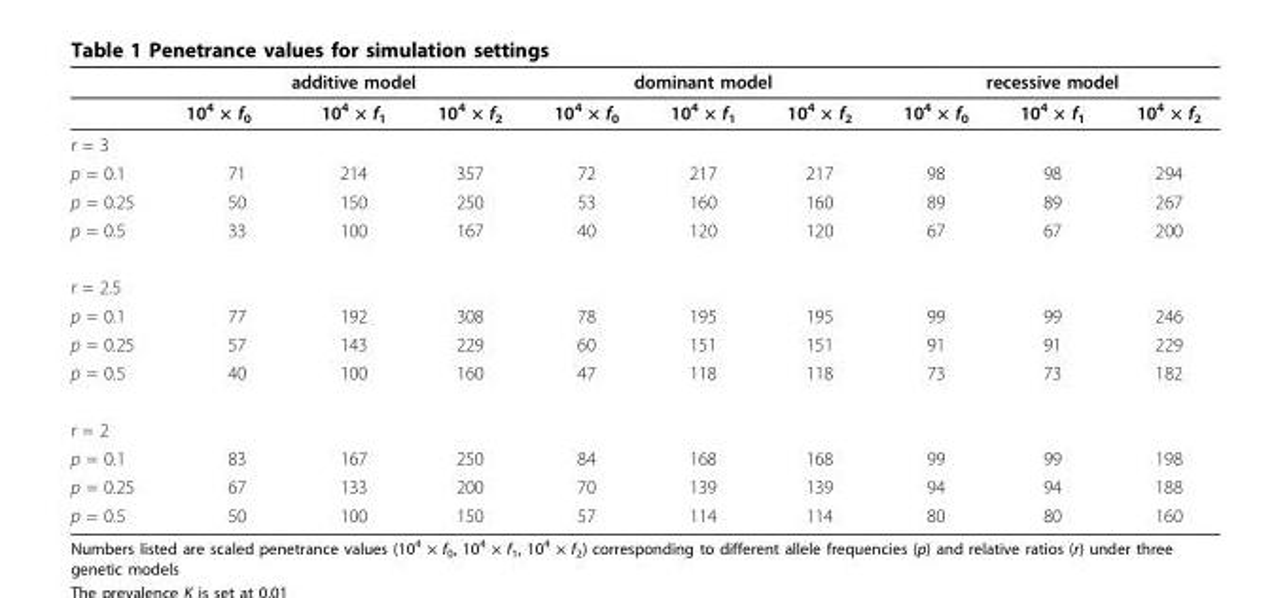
<table><thead><tr><td rowspan="2"></td><td colspan="3">additive model</td><td colspan="3">dominant model</td><td colspan="3">recessive model</td></tr><tr><td>10<sup>4</sup> × f<sub>0</sub></td><td>10<sup>4</sup> × f<sub>1</sub></td><td>10<sup>4</sup> × f<sub>2</sub></td><td>10<sup>4</sup> × f<sub>0</sub></td><td>10<sup>4</sup> × f<sub>1</sub></td><td>10<sup>4</sup> × f<sub>2</sub></td><td>10<sup>4</sup> × f<sub>0</sub></td><td>10<sup>4</sup> × f<sub>1</sub></td><td>10<sup>4</sup> × f<sub>2</sub></td></tr></thead><tbody><tr><td colspan="10">r = 3</td></tr><tr><td>p = 0.1</td><td>71</td><td>214</td><td>357</td><td>72</td><td>217</td><td>217</td><td>98</td><td>98</td><td>294</td></tr><tr><td>p = 0.25</td><td>50</td><td>150</td><td>250</td><td>53</td><td>160</td><td>160</td><td>89</td><td>89</td><td>267</td></tr><tr><td>p = 0.5</td><td>33</td><td>100</td><td>167</td><td>40</td><td>120</td><td>120</td><td>67</td><td>67</td><td>200</td></tr><tr><td colspan="10">r = 2.5</td></tr><tr><td>p = 0.1</td><td>77</td><td>192</td><td>308</td><td>78</td><td>195</td><td>195</td><td>99</td><td>99</td><td>246</td></tr><tr><td>p = 0.25</td><td>57</td><td>143</td><td>229</td><td>60</td><td>151</td><td>151</td><td>91</td><td>91</td><td>229</td></tr><tr><td>p = 0.5</td><td>40</td><td>100</td><td>160</td><td>47</td><td>118</td><td>118</td><td>73</td><td>73</td><td>182</td></tr><tr><td colspan="10">r = 2</td></tr><tr><td>p = 0.1</td><td>83</td><td>167</td><td>250</td><td>84</td><td>168</td><td>168</td><td>99</td><td>99</td><td>198</td></tr><tr><td>p = 0.25</td><td>67</td><td>133</td><td>200</td><td>70</td><td>139</td><td>139</td><td>94</td><td>94</td><td>188</td></tr><tr><td>p = 0.5</td><td>50</td><td>100</td><td>150</td><td>57</td><td>114</td><td>114</td><td>80</td><td>80</td><td>160</td></tr></tbody></table>